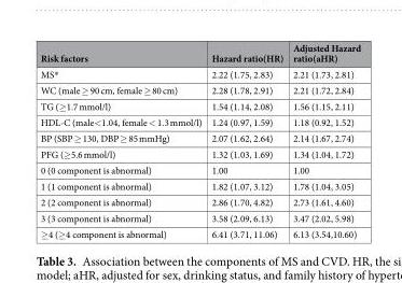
<table><thead><tr><td>Risk factors</td><td>Hazard ratio(HR)</td><td>Adjusted Hazard ratio(aHR)</td></tr></thead><tbody><tr><td>MS*</td><td>2.22 (1.75, 2.83)</td><td>2.21 (1.73, 2.81)</td></tr><tr><td>WC (male ≥ 90 cm, female ≥ 80 cm)</td><td>2.28 (1.78, 2.91)</td><td>2.21 (1.72, 2.84)</td></tr><tr><td>TG (≥1.7 mmol/l)</td><td>1.54 (1.14, 2.08)</td><td>1.56 (1.15, 2.11)</td></tr><tr><td>HDL-C (male&lt;1.04, female &lt; 1.3 mmol/l)</td><td>1.24 (0.97, 1.59)</td><td>1.18 (0.92, 1.52)</td></tr><tr><td>BP (SBP ≥ 130, DBP ≥ 85 mmHg)</td><td>2.07 (1.62, 2.64)</td><td>2.14 (1.67, 2.74)</td></tr><tr><td>PFG (≥5.6 mmol/l)</td><td>1.32 (1.03, 1.69)</td><td>1.34 (1.04, 1.72)</td></tr><tr><td>0 (0 component is abnormal)</td><td>1.00</td><td>1.00</td></tr><tr><td>1 (1 component is abnormal)</td><td>1.82 (1.07, 3.12)</td><td>1.78 (1.04, 3.05)</td></tr><tr><td>2 (2 component is abnormal)</td><td>2.86 (1.70, 4.82)</td><td>2.73 (1.61, 4.60)</td></tr><tr><td>3 (3 component is abnormal)</td><td>3.58 (2.09, 6.13)</td><td>3.47 (2.02, 5.98)</td></tr><tr><td>≥4 (≥4 component is abnormal)</td><td>6.41 (3.71, 11.06)</td><td>6.13 (3.54,10.60)</td></tr></tbody></table>